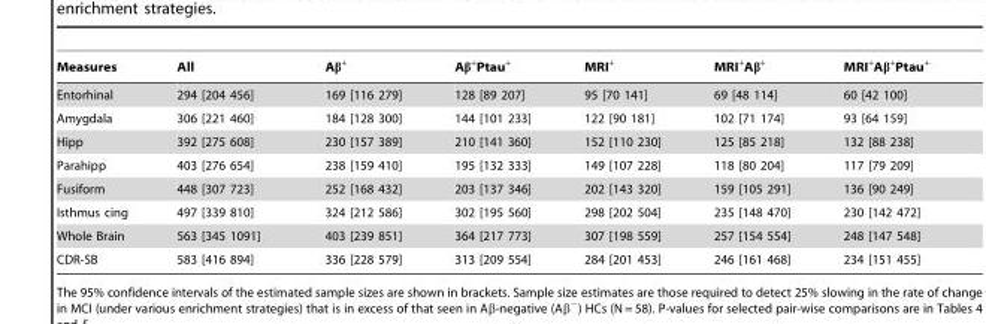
<table><thead><tr><td>Measures</td><td>All</td><td>Aβ<sup>+</sup></td><td>Aβ<sup>+</sup>Ptau<sup>+</sup></td><td>MRI<sup>+</sup></td><td>MRI<sup>+</sup>Aβ<sup>+</sup></td><td>MRI<sup>+</sup>Aβ<sup>+</sup>Ptau<sup>+</sup></td></tr></thead><tbody><tr><td>Entorhinal</td><td>294 [204 456]</td><td>169 [116 279]</td><td>128 [89 207]</td><td>95 [70 141]</td><td>69 [48 114]</td><td>60 [42 100]</td></tr><tr><td>Amygdala</td><td>306 [221 460]</td><td>184 [128 300]</td><td>144 [101 233]</td><td>122 [90 181]</td><td>102 [71 174]</td><td>93 [64 159]</td></tr><tr><td>Hipp</td><td>392 [275 608]</td><td>230 [157 389]</td><td>210 [141 360]</td><td>152 [110 230]</td><td>125 [85 218]</td><td>132 [88 238]</td></tr><tr><td>Parahipp</td><td>403 [276 654]</td><td>238 [159 410]</td><td>195 [132 333]</td><td>149 [107 228]</td><td>118 [80 204]</td><td>117 [79 209]</td></tr><tr><td>Fusiform</td><td>448 [307 723]</td><td>252 [168 432]</td><td>203 [137 346]</td><td>202 [143 320]</td><td>159 [105 291]</td><td>136 [90 249]</td></tr><tr><td>Isthmus cing</td><td>497 [339 810]</td><td>324 [212 586]</td><td>302 [195 560]</td><td>298 [202 504]</td><td>235 [148 470]</td><td>230 [142 472]</td></tr><tr><td>Whole Brain</td><td>563 [345 1091]</td><td>403 [239 851]</td><td>364 [217 773]</td><td>307 [198 559]</td><td>257 [154 554]</td><td>248 [147 548]</td></tr><tr><td>CDR-SB</td><td>583 [416 894]</td><td>336 [228 579]</td><td>313 [209 554]</td><td>284 [201 453]</td><td>246 [161 468]</td><td>234 [151 455]</td></tr></tbody></table>